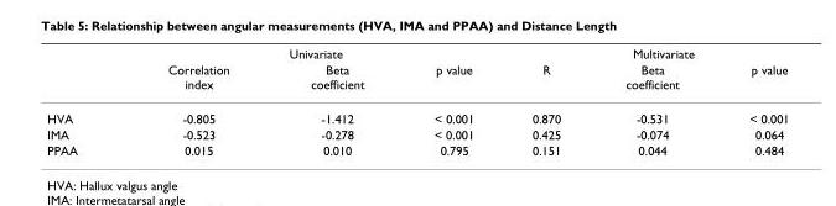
<table><thead><tr><td rowspan="2"></td><td colspan="3">Univariate</td><td colspan="3">Multivariate</td></tr><tr><td>Correlation index</td><td>Beta coefficient</td><td>p value</td><td>R</td><td>Beta coefficient</td><td>p value</td></tr></thead><tbody><tr><td>HVA</td><td>-0.805</td><td>-1.412</td><td>&lt; 0.001</td><td>0.870</td><td>-0.531</td><td>&lt; 0.001</td></tr><tr><td>IMA</td><td>-0.523</td><td>-0.278</td><td>&lt; 0.001</td><td>0.425</td><td>-0.074</td><td>0.064</td></tr><tr><td>PPAA</td><td>0.015</td><td>0.010</td><td>0.795</td><td>0.151</td><td>0.044</td><td>0.484</td></tr></tbody></table>